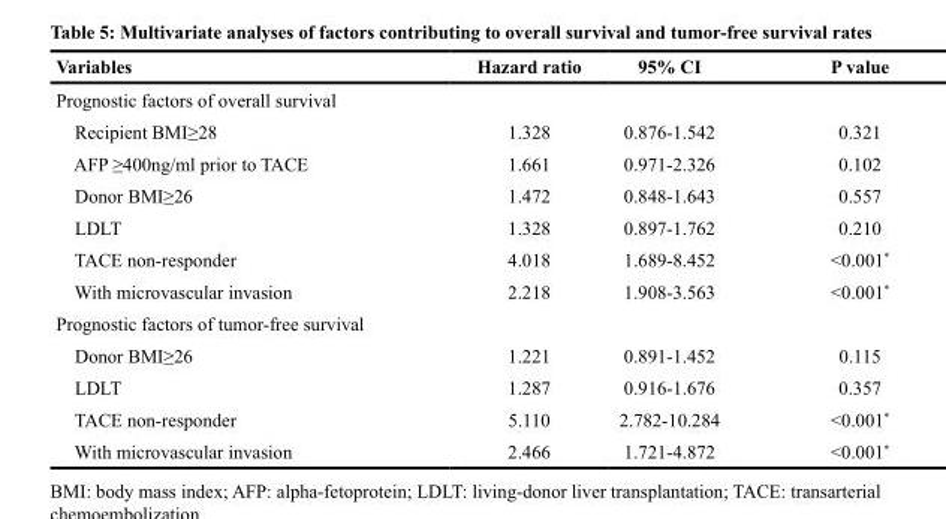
<table><thead><tr><td>Variables</td><td>Hazard ratio</td><td>95% CI</td><td>P value</td></tr></thead><tbody><tr><td colspan="4">Prognostic factors of overall survival</td></tr><tr><td>Recipient BMI≥28</td><td>1.328</td><td>0.876-1.542</td><td>0.321</td></tr><tr><td>AFP ≥400ng/ml prior to TACE</td><td>1.661</td><td>0.971-2.326</td><td>0.102</td></tr><tr><td>Donor BMI≥26</td><td>1.472</td><td>0.848-1.643</td><td>0.557</td></tr><tr><td>LDLT</td><td>1.328</td><td>0.897-1.762</td><td>0.210</td></tr><tr><td>TACE non-responder</td><td>4.018</td><td>1.689-8.452</td><td>&lt;0.001*</td></tr><tr><td>With microvascular invasion</td><td>2.218</td><td>1.908-3.563</td><td>&lt;0.001*</td></tr><tr><td colspan="4">Prognostic factors of tumor-free survival</td></tr><tr><td>Donor BMI≥26</td><td>1.221</td><td>0.891-1.452</td><td>0.115</td></tr><tr><td>LDLT</td><td>1.287</td><td>0.916-1.676</td><td>0.357</td></tr><tr><td>TACE non-responder</td><td>5.110</td><td>2.782-10.284</td><td>&lt;0.001*</td></tr><tr><td>With microvascular invasion</td><td>2.466</td><td>1.721-4.872</td><td>&lt;0.001*</td></tr></tbody></table>